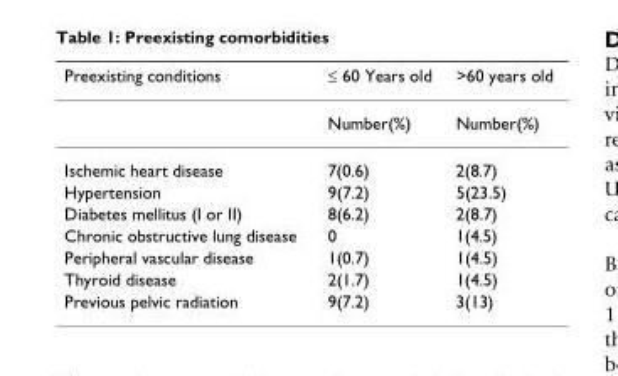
<table><thead><tr><td>Preexisting conditions</td><td>≤ 60 Years old</td><td>&gt;60 years old</td></tr></thead><tbody><tr><td></td><td>Number(%)</td><td>Number(%)</td></tr><tr><td>Ischemic heart disease</td><td>7(0.6)</td><td>2(8.7)</td></tr><tr><td>Hypertension</td><td>9(7.2)</td><td>5(23.5)</td></tr><tr><td>Diabetes mellitus (I or II)</td><td>8(6.2)</td><td>2(8.7)</td></tr><tr><td>Chronic obstructive lung disease</td><td>0</td><td>1(4.5)</td></tr><tr><td>Peripheral vascular disease</td><td>1(0.7)</td><td>1(4.5)</td></tr><tr><td>Thyroid disease</td><td>2(1.7)</td><td>1(4.5)</td></tr><tr><td>Previous pelvic radiation</td><td>9(7.2)</td><td>3(13)</td></tr></tbody></table>